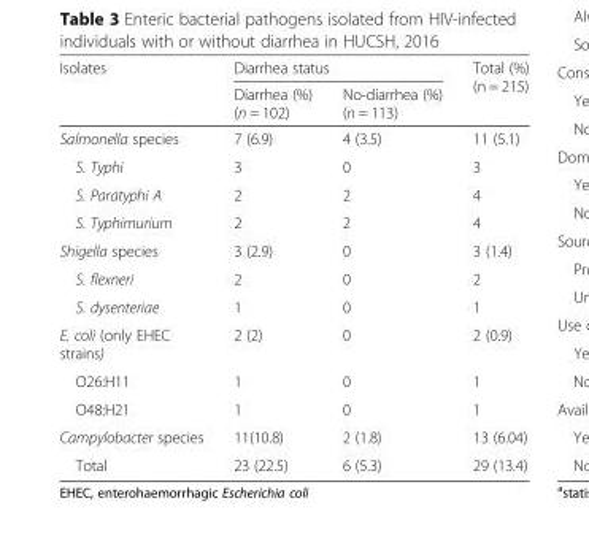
<table><thead><tr><td rowspan="2">Isolates</td><td colspan="2">Diarrhea status</td><td rowspan="2">Total (%) (n = 215)</td></tr><tr><td>Diarrhea (%) (n = 102)</td><td>No-diarrhea (%) (n = 113)</td></tr></thead><tbody><tr><td>Salmonella species</td><td>7 (6.9)</td><td>4 (3.5)</td><td>11 (5.1)</td></tr><tr><td>S. Typhi</td><td>3</td><td>0</td><td>3</td></tr><tr><td>S. Paratyphi A</td><td>2</td><td>2</td><td>4</td></tr><tr><td>S. Typhimurium</td><td>2</td><td>2</td><td>4</td></tr><tr><td>Shigella species</td><td>3 (2.9)</td><td>0</td><td>3 (1.4)</td></tr><tr><td>S. flexneri</td><td>2</td><td>0</td><td>2</td></tr><tr><td>S. dysenteriae</td><td>1</td><td>0</td><td>1</td></tr><tr><td>E. coli (only EHEC strains)</td><td>2 (2)</td><td>0</td><td>2 (0.9)</td></tr><tr><td>O26:H11</td><td>1</td><td>0</td><td>1</td></tr><tr><td>O48:H21</td><td>1</td><td>0</td><td>1</td></tr><tr><td>Campylobacter species</td><td>11(10.8)</td><td>2 (1.8)</td><td>13 (6.04)</td></tr><tr><td>Total</td><td>23 (22.5)</td><td>6 (5.3)</td><td>29 (13.4)</td></tr></tbody></table>